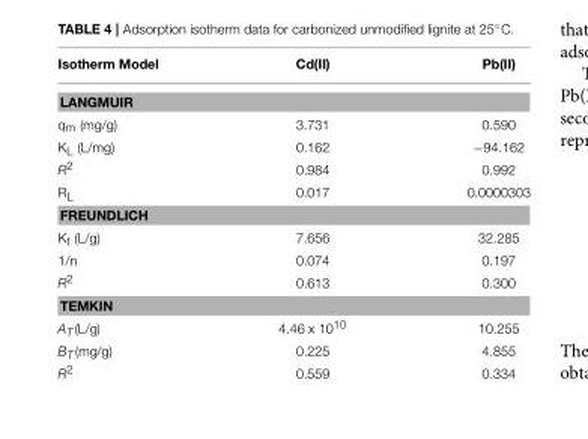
<table><thead><tr><td>Isotherm Model</td><td>Cd(II)</td><td>Pb(II)</td></tr></thead><tbody><tr><td colspan="3">LANGMUIR</td></tr><tr><td>q<sub>m</sub> (mg/g)</td><td>3.731</td><td>0.590</td></tr><tr><td>K<sub>L</sub> (L/mg)</td><td>0.162</td><td>−94.162</td></tr><tr><td>R<sup>2</sup></td><td>0.984</td><td>0.992</td></tr><tr><td>R<sub>L</sub></td><td>0.017</td><td>0.0000303</td></tr><tr><td colspan="3">FREUNDLICH</td></tr><tr><td>K<sub>f</sub> (L/g)</td><td>7.656</td><td>32.285</td></tr><tr><td>1/n</td><td>0.074</td><td>0.197</td></tr><tr><td>R<sup>2</sup></td><td>0.613</td><td>0.300</td></tr><tr><td colspan="3">TEMKIN</td></tr><tr><td>A<sub>T</sub>(L/g)</td><td>4.46 x 10<sup>10</sup></td><td>10.255</td></tr><tr><td>B<sub>T</sub>(mg/g)</td><td>0.225</td><td>4.855</td></tr><tr><td>R<sup>2</sup></td><td>0.559</td><td>0.334</td></tr></tbody></table>